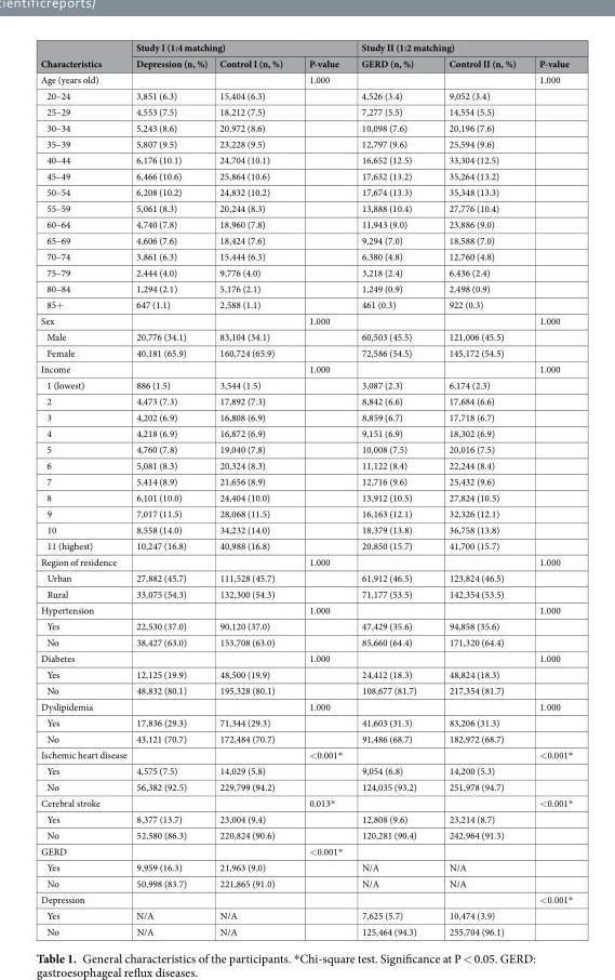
<table><thead><tr><td rowspan="2">Characteristics</td><td colspan="3">Study I (1:4 matching)</td><td colspan="3">Study II (1:2 matching)</td></tr><tr><td>Depression (n, %)</td><td>Control I (n, %)</td><td>P-value</td><td>GERD (n, %)</td><td>Control II (n, %)</td><td>P-value</td></tr></thead><tbody><tr><td>Age (years old)</td><td></td><td></td><td>1.000</td><td></td><td></td><td>1.000</td></tr><tr><td>20–24</td><td>3,851 (6.3)</td><td>15,404 (6.3)</td><td></td><td>4,526 (3.4)</td><td>9,052 (3.4)</td><td></td></tr><tr><td>25–29</td><td>4,553 (7.5)</td><td>18,212 (7.5)</td><td></td><td>7,277 (5.5)</td><td>14,554 (5.5)</td><td></td></tr><tr><td>30–34</td><td>5,243 (8.6)</td><td>20,972 (8.6)</td><td></td><td>10,098 (7.6)</td><td>20,196 (7.6)</td><td></td></tr><tr><td>35–39</td><td>5,807 (9.5)</td><td>23,228 (9.5)</td><td></td><td>12,797 (9.6)</td><td>25,594 (9.6)</td><td></td></tr><tr><td>40–44</td><td>6,176 (10.1)</td><td>24,704 (10.1)</td><td></td><td>16,652 (12.5)</td><td>33,304 (12.5)</td><td></td></tr><tr><td>45–49</td><td>6,466 (10.6)</td><td>25,864 (10.6)</td><td></td><td>17,632 (13.2)</td><td>35,264 (13.2)</td><td></td></tr><tr><td>50–54</td><td>6,208 (10.2)</td><td>24,832 (10.2)</td><td></td><td>17,674 (13.3)</td><td>35,348 (13.3)</td><td></td></tr><tr><td>55–59</td><td>5,061 (8.3)</td><td>20,244 (8.3)</td><td></td><td>13,888 (10.4)</td><td>27,776 (10.4)</td><td></td></tr><tr><td>60–64</td><td>4,740 (7.8)</td><td>18,960 (7.8)</td><td></td><td>11,943 (9.0)</td><td>23,886 (9.0)</td><td></td></tr><tr><td>65–69</td><td>4,606 (7.6)</td><td>18,424 (7.6)</td><td></td><td>9,294 (7.0)</td><td>18,588 (7.0)</td><td></td></tr><tr><td>70–74</td><td>3,861 (6.3)</td><td>15,444 (6.3)</td><td></td><td>6,380 (4.8)</td><td>12,760 (4.8)</td><td></td></tr><tr><td>75–79</td><td>2,444 (4.0)</td><td>9,776 (4.0)</td><td></td><td>3,218 (2.4)</td><td>6,436 (2.4)</td><td></td></tr><tr><td>80–84</td><td>1,294 (2.1)</td><td>5,176 (2.1)</td><td></td><td>1,249 (0.9)</td><td>2,498 (0.9)</td><td></td></tr><tr><td>85+</td><td>647 (1.1)</td><td>2,588 (1.1)</td><td></td><td>461 (0.3)</td><td>922 (0.3)</td><td></td></tr><tr><td>Sex</td><td></td><td></td><td>1.000</td><td></td><td></td><td>1.000</td></tr><tr><td>Male</td><td>20,776 (34.1)</td><td>83,104 (34.1)</td><td></td><td>60,503 (45.5)</td><td>121,006 (45.5)</td><td></td></tr><tr><td>Female</td><td>40,181 (65.9)</td><td>160,724 (65.9)</td><td></td><td>72,586 (54.5)</td><td>145,172 (54.5)</td><td></td></tr><tr><td>Income</td><td></td><td></td><td>1.000</td><td></td><td></td><td>1.000</td></tr><tr><td>1 (lowest)</td><td>886 (1.5)</td><td>3,544 (1.5)</td><td></td><td>3,087 (2.3)</td><td>6,174 (2.3)</td><td></td></tr><tr><td>2</td><td>4,473 (7.3)</td><td>17,892 (7.3)</td><td></td><td>8,842 (6.6)</td><td>17,684 (6.6)</td><td></td></tr><tr><td>3</td><td>4,202 (6.9)</td><td>16,808 (6.9)</td><td></td><td>8,859 (6.7)</td><td>17,718 (6.7)</td><td></td></tr><tr><td>4</td><td>4,218 (6.9)</td><td>16,872 (6.9)</td><td></td><td>9,151 (6.9)</td><td>18,302 (6.9)</td><td></td></tr><tr><td>5</td><td>4,760 (7.8)</td><td>19,040 (7.8)</td><td></td><td>10,008 (7.5)</td><td>20,016 (7.5)</td><td></td></tr><tr><td>6</td><td>5,081 (8.3)</td><td>20,324 (8.3)</td><td></td><td>11,122 (8.4)</td><td>22,244 (8.4)</td><td></td></tr><tr><td>7</td><td>5,414 (8.9)</td><td>21,656 (8.9)</td><td></td><td>12,716 (9.6)</td><td>25,432 (9.6)</td><td></td></tr><tr><td>8</td><td>6,101 (10.0)</td><td>24,404 (10.0)</td><td></td><td>13,912 (10.5)</td><td>27,824 (10.5)</td><td></td></tr><tr><td>9</td><td>7,017 (11.5)</td><td>28,068 (11.5)</td><td></td><td>16,163 (12.1)</td><td>32,326 (12.1)</td><td></td></tr><tr><td>10</td><td>8,558 (14.0)</td><td>34,232 (14.0)</td><td></td><td>18,379 (13.8)</td><td>36,758 (13.8)</td><td></td></tr><tr><td>11 (highest)</td><td>10,247 (16.8)</td><td>40,988 (16.8)</td><td></td><td>20,850 (15.7)</td><td>41,700 (15.7)</td><td></td></tr><tr><td>Region of residence</td><td></td><td></td><td>1.000</td><td></td><td></td><td>1.000</td></tr><tr><td>Urban</td><td>27,882 (45.7)</td><td>111,528 (45.7)</td><td></td><td>61,912 (46.5)</td><td>123,824 (46.5)</td><td></td></tr><tr><td>Rural</td><td>33,075 (54.3)</td><td>132,300 (54.3)</td><td></td><td>71,177 (53.5)</td><td>142,354 (53.5)</td><td></td></tr><tr><td>Hypertension</td><td></td><td></td><td>1.000</td><td></td><td></td><td>1.000</td></tr><tr><td>Yes</td><td>22,530 (37.0)</td><td>90,120 (37.0)</td><td></td><td>47,429 (35.6)</td><td>94,858 (35.6)</td><td></td></tr><tr><td>No</td><td>38,427 (63.0)</td><td>153,708 (63.0)</td><td></td><td>85,660 (64.4)</td><td>171,320 (64.4)</td><td></td></tr><tr><td>Diabetes</td><td></td><td></td><td>1.000</td><td></td><td></td><td>1.000</td></tr><tr><td>Yes</td><td>12,125 (19.9)</td><td>48,500 (19.9)</td><td></td><td>24,412 (18.3)</td><td>48,824 (18.3)</td><td></td></tr><tr><td>No</td><td>48,832 (80.1)</td><td>195,328 (80.1)</td><td></td><td>108,677 (81.7)</td><td>217,354 (81.7)</td><td></td></tr><tr><td>Dyslipidemia</td><td></td><td></td><td>1.000</td><td></td><td></td><td>1.000</td></tr><tr><td>Yes</td><td>17,836 (29.3)</td><td>71,344 (29.3)</td><td></td><td>41,603 (31.3)</td><td>83,206 (31.3)</td><td></td></tr><tr><td>No</td><td>43,121 (70.7)</td><td>172,484 (70.7)</td><td></td><td>91,486 (68.7)</td><td>182,972 (68.7)</td><td></td></tr><tr><td>Ischemic heart disease</td><td></td><td></td><td>&lt;0.001*</td><td></td><td></td><td>&lt;0.001*</td></tr><tr><td>Yes</td><td>4,575 (7.5)</td><td>14,029 (5.8)</td><td></td><td>9,054 (6.8)</td><td>14,200 (5.3)</td><td></td></tr><tr><td>No</td><td>56,382 (92.5)</td><td>229,799 (94.2)</td><td></td><td>124,035 (93.2)</td><td>251,978 (94.7)</td><td></td></tr><tr><td>Cerebral stroke</td><td></td><td></td><td>0.013*</td><td></td><td></td><td>&lt;0.001*</td></tr><tr><td>Yes</td><td>8,377 (13.7)</td><td>23,004 (9.4)</td><td></td><td>12,808 (9.6)</td><td>23,214 (8.7)</td><td></td></tr><tr><td>No</td><td>52,580 (86.3)</td><td>220,824 (90.6)</td><td></td><td>120,281 (90.4)</td><td>242,964 (91.3)</td><td></td></tr><tr><td>GERD</td><td></td><td></td><td>&lt;0.001*</td><td></td><td></td><td></td></tr><tr><td>Yes</td><td>9,959 (16.3)</td><td>21,963 (9.0)</td><td></td><td>N/A</td><td>N/A</td><td></td></tr><tr><td>No</td><td>50,998 (83.7)</td><td>221,865 (91.0)</td><td></td><td>N/A</td><td>N/A</td><td></td></tr><tr><td>Depression</td><td></td><td></td><td></td><td></td><td></td><td>&lt;0.001*</td></tr><tr><td>Yes</td><td>N/A</td><td>N/A</td><td></td><td>7,625 (5.7)</td><td>10,474 (3.9)</td><td></td></tr><tr><td>No</td><td>N/A</td><td>N/A</td><td></td><td>125,464 (94.3)</td><td>255,704 (96.1)</td><td></td></tr></tbody></table>